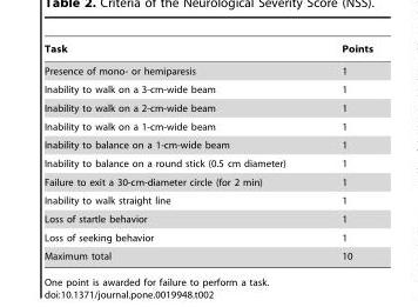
<table><thead><tr><td>Task</td><td>Points</td></tr></thead><tbody><tr><td>Presence of mono- or hemiparesis</td><td>1</td></tr><tr><td>Inability to walk on a 3-cm-wide beam</td><td>1</td></tr><tr><td>Inability to walk on a 2-cm-wide beam</td><td>1</td></tr><tr><td>Inability to walk on a 1-cm-wide beam</td><td>1</td></tr><tr><td>Inability to balance on a 1-cm-wide beam</td><td>1</td></tr><tr><td>Inability to balance on a round stick (0.5 cm diameter)</td><td>1</td></tr><tr><td>Failure to exit a 30-cm-diameter circle (for 2 min)</td><td>1</td></tr><tr><td>Inability to walk straight line</td><td>1</td></tr><tr><td>Loss of startle behavior</td><td>1</td></tr><tr><td>Loss of seeking behavior</td><td>1</td></tr><tr><td>Maximum total</td><td>10</td></tr></tbody></table>